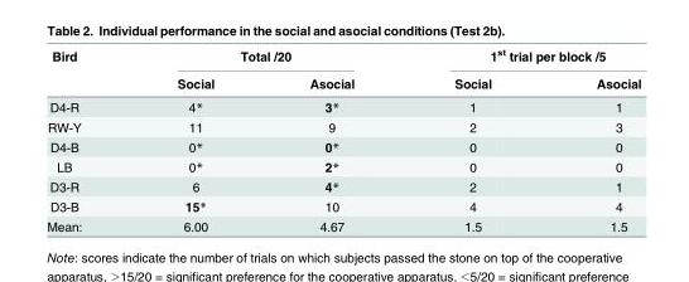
<table><thead><tr><td rowspan="2">Bird</td><td colspan="2">Total /20</td><td colspan="2">1<sup>st</sup> trial per block /5</td></tr><tr><td>Social</td><td>Asocial</td><td>Social</td><td>Asocial</td></tr></thead><tbody><tr><td>D4-R</td><td>4*</td><td>3*</td><td>1</td><td>1</td></tr><tr><td>RW-Y</td><td>11</td><td>9</td><td>2</td><td>3</td></tr><tr><td>D4-B</td><td>0*</td><td>0*</td><td>0</td><td>0</td></tr><tr><td>LB</td><td>0*</td><td>2*</td><td>0</td><td>0</td></tr><tr><td>D3-R</td><td>6</td><td>4*</td><td>2</td><td>1</td></tr><tr><td>D3-B</td><td>15*</td><td>10</td><td>4</td><td>4</td></tr><tr><td>Mean:</td><td>6.00</td><td>4.67</td><td>1.5</td><td>1.5</td></tr></tbody></table>